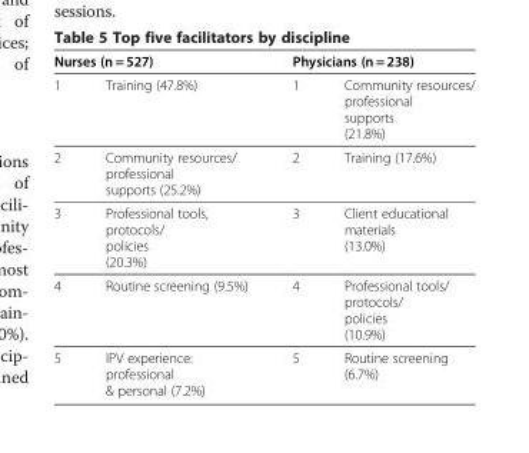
<table><thead><tr><td colspan="2">Nurses (n = 527)</td><td colspan="2">Physicians (n = 238)</td></tr><tr><td>1</td><td>Training (47.8%)</td><td>1</td><td>Community resources/ professional supports (21.8%)</td></tr></thead><tbody><tr><td>2</td><td>Community resources/ professional supports (25.2%)</td><td>2</td><td>Training (17.6%)</td></tr><tr><td>3</td><td>Professional tools, protocols/ policies (20.3%)</td><td>3</td><td>Client educational materials (13.0%)</td></tr><tr><td>4</td><td>Routine screening (9.5%)</td><td>4</td><td>Professional tools/ protocols/ policies (10.9%)</td></tr><tr><td>5</td><td>IPV experience: professional &amp; personal (7.2%)</td><td>5</td><td>Routine screening (6.7%)</td></tr></tbody></table>